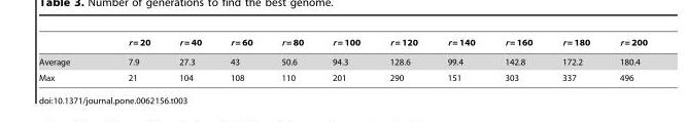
<table><thead><tr><td></td><td>r = 20</td><td>r = 40</td><td>r = 60</td><td>r = 80</td><td>r = 100</td><td>r = 120</td><td>r = 140</td><td>r = 160</td><td>r = 180</td><td>r = 200</td></tr></thead><tbody><tr><td>Average</td><td>7.9</td><td>27.3</td><td>43</td><td>50.6</td><td>94.3</td><td>128.6</td><td>99.4</td><td>142.8</td><td>172.2</td><td>180.4</td></tr><tr><td>Max</td><td>21</td><td>104</td><td>108</td><td>110</td><td>201</td><td>290</td><td>151</td><td>303</td><td>337</td><td>496</td></tr></tbody></table>